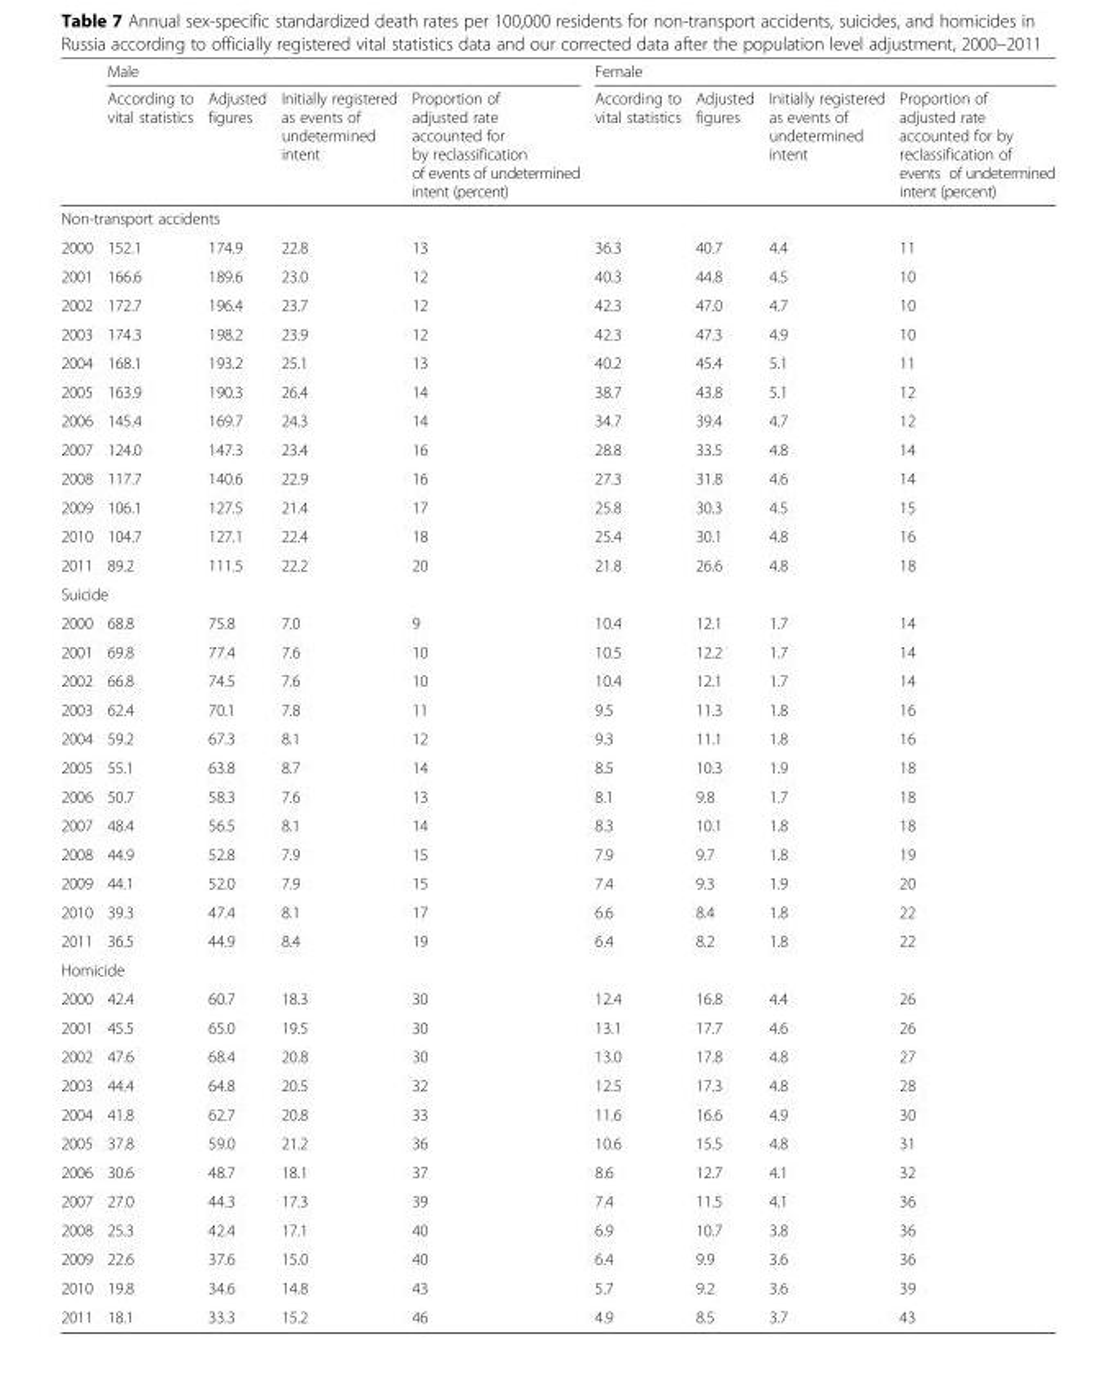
<table><thead><tr><td rowspan="2"></td><td colspan="4">Male</td><td colspan="4">Female</td></tr><tr><td>According to vital statistics</td><td>Adjusted figures</td><td>Initially registered as events of undetermined intent</td><td>Proportion of adjusted rate accounted for by reclassification of events of undetermined intent (percent)</td><td>According to vital statistics</td><td>Adjusted figures</td><td>Initially registered as events of undetermined intent</td><td>Proportion of adjusted rate accounted for by reclassification of events of undetermined intent (percent)</td></tr></thead><tbody><tr><td colspan="9">Non-transport accidents</td></tr><tr><td>2000</td><td>152.1</td><td>174.9</td><td>22.8</td><td>13</td><td>36.3</td><td>40.7</td><td>4.4</td><td>11</td></tr><tr><td>2001</td><td>166.6</td><td>189.6</td><td>23.0</td><td>12</td><td>40.3</td><td>44.8</td><td>4.5</td><td>10</td></tr><tr><td>2002</td><td>172.7</td><td>196.4</td><td>23.7</td><td>12</td><td>42.3</td><td>47.0</td><td>4.7</td><td>10</td></tr><tr><td>2003</td><td>174.3</td><td>198.2</td><td>23.9</td><td>12</td><td>42.3</td><td>47.3</td><td>4.9</td><td>10</td></tr><tr><td>2004</td><td>168.1</td><td>193.2</td><td>25.1</td><td>13</td><td>40.2</td><td>45.4</td><td>5.1</td><td>11</td></tr><tr><td>2005</td><td>163.9</td><td>190.3</td><td>26.4</td><td>14</td><td>38.7</td><td>43.8</td><td>5.1</td><td>12</td></tr><tr><td>2006</td><td>145.4</td><td>169.7</td><td>24.3</td><td>14</td><td>34.7</td><td>39.4</td><td>4.7</td><td>12</td></tr><tr><td>2007</td><td>124.0</td><td>147.3</td><td>23.4</td><td>16</td><td>28.8</td><td>33.5</td><td>4.8</td><td>14</td></tr><tr><td>2008</td><td>117.7</td><td>140.6</td><td>22.9</td><td>16</td><td>27.3</td><td>31.8</td><td>4.6</td><td>14</td></tr><tr><td>2009</td><td>106.1</td><td>127.5</td><td>21.4</td><td>17</td><td>25.8</td><td>30.3</td><td>4.5</td><td>15</td></tr><tr><td>2010</td><td>104.7</td><td>127.1</td><td>22.4</td><td>18</td><td>25.4</td><td>30.1</td><td>4.8</td><td>16</td></tr><tr><td>2011</td><td>89.2</td><td>111.5</td><td>22.2</td><td>20</td><td>21.8</td><td>26.6</td><td>4.8</td><td>18</td></tr><tr><td colspan="9">Suicide</td></tr><tr><td>2000</td><td>68.8</td><td>75.8</td><td>7.0</td><td>9</td><td>10.4</td><td>12.1</td><td>1.7</td><td>14</td></tr><tr><td>2001</td><td>69.8</td><td>77.4</td><td>7.6</td><td>10</td><td>10.5</td><td>12.2</td><td>1.7</td><td>14</td></tr><tr><td>2002</td><td>66.8</td><td>74.5</td><td>7.6</td><td>10</td><td>10.4</td><td>12.1</td><td>1.7</td><td>14</td></tr><tr><td>2003</td><td>62.4</td><td>70.1</td><td>7.8</td><td>11</td><td>9.5</td><td>11.3</td><td>1.8</td><td>16</td></tr><tr><td>2004</td><td>59.2</td><td>67.3</td><td>8.1</td><td>12</td><td>9.3</td><td>11.1</td><td>1.8</td><td>16</td></tr><tr><td>2005</td><td>55.1</td><td>63.8</td><td>8.7</td><td>14</td><td>8.5</td><td>10.3</td><td>1.9</td><td>18</td></tr><tr><td>2006</td><td>50.7</td><td>58.3</td><td>7.6</td><td>13</td><td>8.1</td><td>9.8</td><td>1.7</td><td>18</td></tr><tr><td>2007</td><td>48.4</td><td>56.5</td><td>8.1</td><td>14</td><td>8.3</td><td>10.1</td><td>1.8</td><td>18</td></tr><tr><td>2008</td><td>44.9</td><td>52.8</td><td>7.9</td><td>15</td><td>7.9</td><td>9.7</td><td>1.8</td><td>19</td></tr><tr><td>2009</td><td>44.1</td><td>52.0</td><td>7.9</td><td>15</td><td>7.4</td><td>9.3</td><td>1.9</td><td>20</td></tr><tr><td>2010</td><td>39.3</td><td>47.4</td><td>8.1</td><td>17</td><td>6.6</td><td>8.4</td><td>1.8</td><td>22</td></tr><tr><td>2011</td><td>36.5</td><td>44.9</td><td>8.4</td><td>19</td><td>6.4</td><td>8.2</td><td>1.8</td><td>22</td></tr><tr><td colspan="9">Homicide</td></tr><tr><td>2000</td><td>42.4</td><td>60.7</td><td>18.3</td><td>30</td><td>12.4</td><td>16.8</td><td>4.4</td><td>26</td></tr><tr><td>2001</td><td>45.5</td><td>65.0</td><td>19.5</td><td>30</td><td>13.1</td><td>17.7</td><td>4.6</td><td>26</td></tr><tr><td>2002</td><td>47.6</td><td>68.4</td><td>20.8</td><td>30</td><td>13.0</td><td>17.8</td><td>4.8</td><td>27</td></tr><tr><td>2003</td><td>44.4</td><td>64.8</td><td>20.5</td><td>32</td><td>12.5</td><td>17.3</td><td>4.8</td><td>28</td></tr><tr><td>2004</td><td>41.8</td><td>62.7</td><td>20.8</td><td>33</td><td>11.6</td><td>16.6</td><td>4.9</td><td>30</td></tr><tr><td>2005</td><td>37.8</td><td>59.0</td><td>21.2</td><td>36</td><td>10.6</td><td>15.5</td><td>4.8</td><td>31</td></tr><tr><td>2006</td><td>30.6</td><td>48.7</td><td>18.1</td><td>37</td><td>8.6</td><td>12.7</td><td>4.1</td><td>32</td></tr><tr><td>2007</td><td>27.0</td><td>44.3</td><td>17.3</td><td>39</td><td>7.4</td><td>11.5</td><td>4.1</td><td>36</td></tr><tr><td>2008</td><td>25.3</td><td>42.4</td><td>17.1</td><td>40</td><td>6.9</td><td>10.7</td><td>3.8</td><td>36</td></tr><tr><td>2009</td><td>22.6</td><td>37.6</td><td>15.0</td><td>40</td><td>6.4</td><td>9.9</td><td>3.6</td><td>36</td></tr><tr><td>2010</td><td>19.8</td><td>34.6</td><td>14.8</td><td>43</td><td>5.7</td><td>9.2</td><td>3.6</td><td>39</td></tr><tr><td>2011</td><td>18.1</td><td>33.3</td><td>15.2</td><td>46</td><td>4.9</td><td>8.5</td><td>3.7</td><td>43</td></tr></tbody></table>